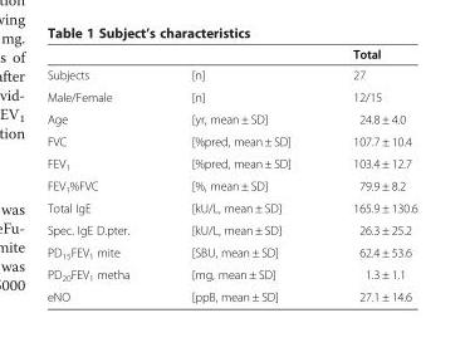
<table><thead><tr><td></td><td></td><td>Total</td></tr></thead><tbody><tr><td>Subjects</td><td>[n]</td><td>27</td></tr><tr><td>Male/Female</td><td>[n]</td><td>12/15</td></tr><tr><td>Age</td><td>[yr, mean ± SD]</td><td>24.8 ± 4.0</td></tr><tr><td>FVC</td><td>[%pred, mean ± SD]</td><td>107.7 ± 10.4</td></tr><tr><td>FEV<sub>1</sub></td><td>[%pred, mean ± SD]</td><td>103.4 ± 12.7</td></tr><tr><td>FEV<sub>1</sub>%FVC</td><td>[%, mean ± SD]</td><td>79.9 ± 8.2</td></tr><tr><td>Total IgE</td><td>[kU/L, mean ± SD]</td><td>165.9 ± 130.6</td></tr><tr><td>Spec. IgE D.pter.</td><td>[kU/L, mean ± SD]</td><td>26.3 ± 25.2</td></tr><tr><td>PD<sub>15</sub>FEV<sub>1</sub> mite</td><td>[SBU, mean ± SD]</td><td>62.4 ± 53.6</td></tr><tr><td>PD<sub>20</sub>FEV<sub>1</sub> metha</td><td>[mg, mean ± SD]</td><td>1.3 ± 1.1</td></tr><tr><td>eNO</td><td>[ppB, mean ± SD]</td><td>27.1 ± 14.6</td></tr></tbody></table>